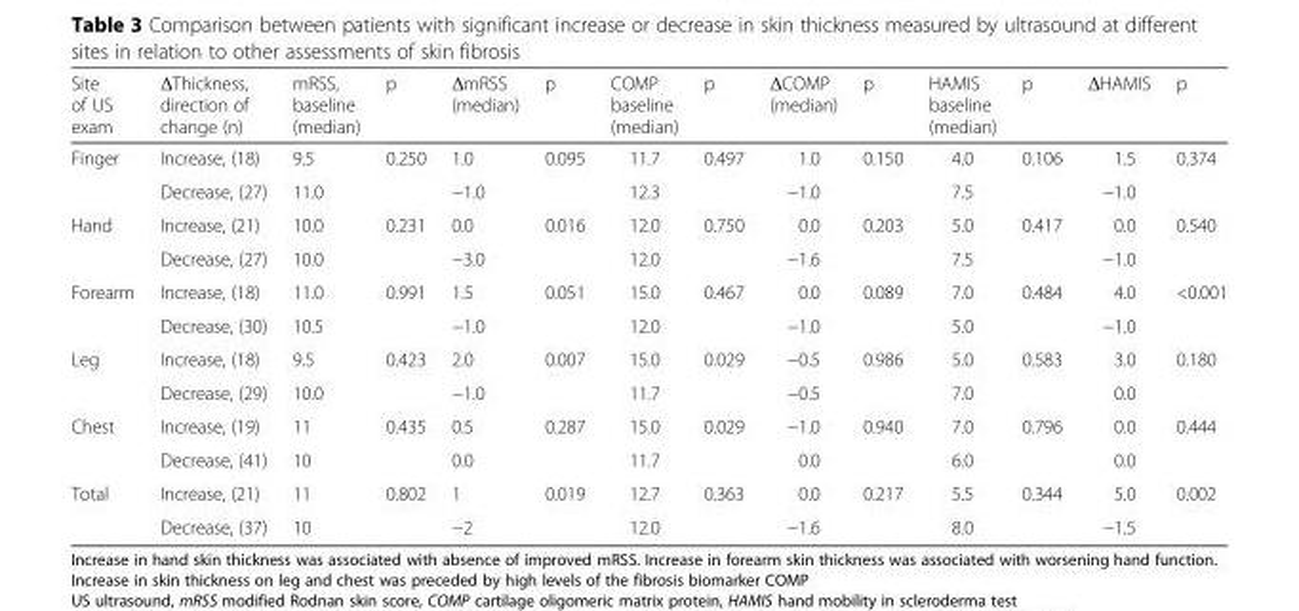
<table><thead><tr><td>Site of US exam</td><td>ΔThickness, direction of change (n)</td><td>mRSS, baseline (median)</td><td>p</td><td>ΔmRSS (median)</td><td>p</td><td>COMP baseline (median)</td><td>p</td><td>ΔCOMP (median)</td><td>p</td><td>HAMIS baseline (median)</td><td>p</td><td>ΔHAMIS</td><td>p</td></tr></thead><tbody><tr><td rowspan="2">Finger</td><td>Increase, (18)</td><td>9.5</td><td rowspan="2">0.250</td><td>1.0</td><td rowspan="2">0.095</td><td>11.7</td><td rowspan="2">0.497</td><td>1.0</td><td rowspan="2">0.150</td><td>4.0</td><td rowspan="2">0.106</td><td>1.5</td><td rowspan="2">0.374</td></tr><tr><td>Decrease, (27)</td><td>11.0</td><td>−1.0</td><td>12.3</td><td>−1.0</td><td>7.5</td><td>−1.0</td></tr><tr><td rowspan="2">Hand</td><td>Increase, (21)</td><td>10.0</td><td rowspan="2">0.231</td><td>0.0</td><td rowspan="2">0.016</td><td>12.0</td><td rowspan="2">0.750</td><td>0.0</td><td rowspan="2">0.203</td><td>5.0</td><td rowspan="2">0.417</td><td>0.0</td><td rowspan="2">0.540</td></tr><tr><td>Decrease, (27)</td><td>10.0</td><td>−3.0</td><td>12.0</td><td>−1.6</td><td>7.5</td><td>−1.0</td></tr><tr><td rowspan="2">Forearm</td><td>Increase, (18)</td><td>11.0</td><td rowspan="2">0.991</td><td>1.5</td><td rowspan="2">0.051</td><td>15.0</td><td rowspan="2">0.467</td><td>0.0</td><td rowspan="2">0.089</td><td>7.0</td><td rowspan="2">0.484</td><td>4.0</td><td rowspan="2">&lt;0.001</td></tr><tr><td>Decrease, (30)</td><td>10.5</td><td>−1.0</td><td>12.0</td><td>−1.0</td><td>5.0</td><td>−1.0</td></tr><tr><td rowspan="2">Leg</td><td>Increase, (18)</td><td>9.5</td><td rowspan="2">0.423</td><td>2.0</td><td rowspan="2">0.007</td><td>15.0</td><td rowspan="2">0.029</td><td>−0.5</td><td rowspan="2">0.986</td><td>5.0</td><td rowspan="2">0.583</td><td>3.0</td><td rowspan="2">0.180</td></tr><tr><td>Decrease, (29)</td><td>10.0</td><td>−1.0</td><td>11.7</td><td>−0.5</td><td>7.0</td><td>0.0</td></tr><tr><td rowspan="2">Chest</td><td>Increase, (19)</td><td>11</td><td rowspan="2">0.435</td><td>0.5</td><td rowspan="2">0.287</td><td>15.0</td><td rowspan="2">0.029</td><td>−1.0</td><td rowspan="2">0.940</td><td>7.0</td><td rowspan="2">0.796</td><td>0.0</td><td rowspan="2">0.444</td></tr><tr><td>Decrease, (41)</td><td>10</td><td>0.0</td><td>11.7</td><td>0.0</td><td>6.0</td><td>0.0</td></tr><tr><td rowspan="2">Total</td><td>Increase, (21)</td><td>11</td><td rowspan="2">0.802</td><td>1</td><td rowspan="2">0.019</td><td>12.7</td><td rowspan="2">0.363</td><td>0.0</td><td rowspan="2">0.217</td><td>5.5</td><td rowspan="2">0.344</td><td>5.0</td><td rowspan="2">0.002</td></tr><tr><td>Decrease, (37)</td><td>10</td><td>−2</td><td>12.0</td><td>−1.6</td><td>8.0</td><td>−1.5</td></tr></tbody></table>